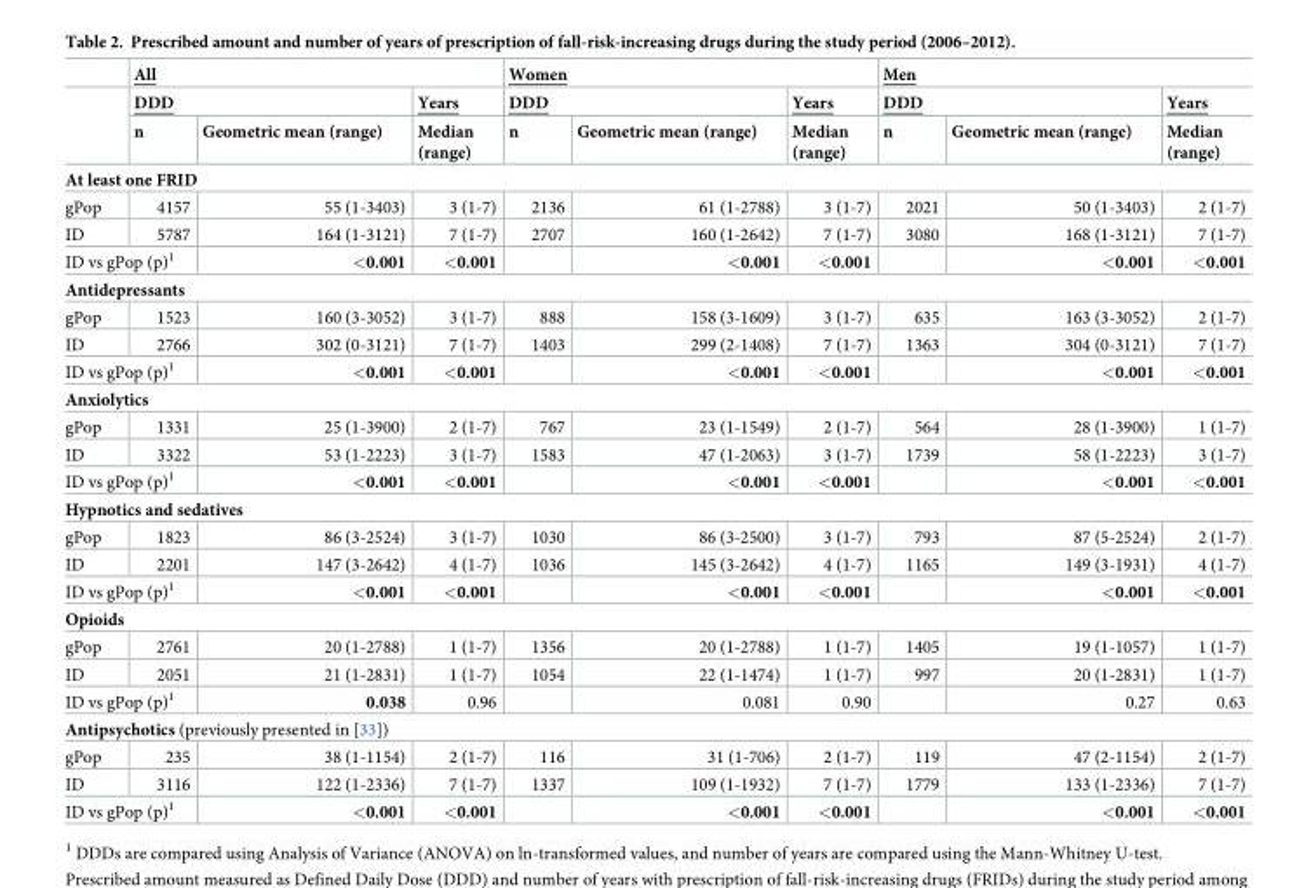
<table><thead><tr><td rowspan="3"></td><td colspan="3">All</td><td colspan="3">Women</td><td colspan="3">Men</td></tr><tr><td colspan="2">DDD</td><td rowspan="2">Years Median (range)</td><td colspan="2">DDD</td><td rowspan="2">Years Median (range)</td><td colspan="2">DDD</td><td rowspan="2">Years Median (range)</td></tr><tr><td>n</td><td>Geometric mean (range)</td><td>n</td><td>Geometric mean (range)</td><td>n</td><td>Geometric mean (range)</td></tr></thead><tbody><tr><td colspan="10">At least one FRID</td></tr><tr><td>gPop</td><td>4157</td><td>55 (1-3403)</td><td>3 (1-7)</td><td>2136</td><td>61 (1-2788)</td><td>3 (1-7)</td><td>2021</td><td>50 (1-3403)</td><td>2 (1-7)</td></tr><tr><td>ID</td><td>5787</td><td>164 (1-3121)</td><td>7 (1-7)</td><td>2707</td><td>160 (1-2642)</td><td>7 (1-7)</td><td>3080</td><td>168 (1-3121)</td><td>7 (1-7)</td></tr><tr><td colspan="2">ID vs gPop (p)<sup>1</sup></td><td>&lt;0.001</td><td>&lt;0.001</td><td></td><td>&lt;0.001</td><td>&lt;0.001</td><td></td><td>&lt;0.001</td><td>&lt;0.001</td></tr><tr><td colspan="10">Antidepressants</td></tr><tr><td>gPop</td><td>1523</td><td>160 (3-3052)</td><td>3 (1-7)</td><td>888</td><td>158 (3-1609)</td><td>3 (1-7)</td><td>635</td><td>163 (3-3052)</td><td>2 (1-7)</td></tr><tr><td>ID</td><td>2766</td><td>302 (0-3121)</td><td>7 (1-7)</td><td>1403</td><td>299 (2-1408)</td><td>7 (1-7)</td><td>1363</td><td>304 (0-3121)</td><td>7 (1-7)</td></tr><tr><td colspan="2">ID vs gPop (p)<sup>1</sup></td><td>&lt;0.001</td><td>&lt;0.001</td><td></td><td>&lt;0.001</td><td>&lt;0.001</td><td></td><td>&lt;0.001</td><td>&lt;0.001</td></tr><tr><td colspan="10">Anxiolytics</td></tr><tr><td>gPop</td><td>1331</td><td>25 (1-3900)</td><td>2 (1-7)</td><td>767</td><td>23 (1-1549)</td><td>2 (1-7)</td><td>564</td><td>28 (1-3900)</td><td>1 (1-7)</td></tr><tr><td>ID</td><td>3322</td><td>53 (1-2223)</td><td>3 (1-7)</td><td>1583</td><td>47 (1-2063)</td><td>3 (1-7)</td><td>1739</td><td>58 (1-2223)</td><td>3 (1-7)</td></tr><tr><td colspan="2">ID vs gPop (p)<sup>1</sup></td><td>&lt;0.001</td><td>&lt;0.001</td><td></td><td>&lt;0.001</td><td>&lt;0.001</td><td></td><td>&lt;0.001</td><td>&lt;0.001</td></tr><tr><td colspan="10">Hypnotics and sedatives</td></tr><tr><td>gPop</td><td>1823</td><td>86 (3-2524)</td><td>3 (1-7)</td><td>1030</td><td>86 (3-2500)</td><td>3 (1-7)</td><td>793</td><td>87 (5-2524)</td><td>2 (1-7)</td></tr><tr><td>ID</td><td>2201</td><td>147 (3-2642)</td><td>4 (1-7)</td><td>1036</td><td>145 (3-2642)</td><td>4 (1-7)</td><td>1165</td><td>149 (3-1931)</td><td>4 (1-7)</td></tr><tr><td colspan="2">ID vs gPop (p)<sup>1</sup></td><td>&lt;0.001</td><td>&lt;0.001</td><td></td><td>&lt;0.001</td><td>&lt;0.001</td><td></td><td>&lt;0.001</td><td>&lt;0.001</td></tr><tr><td colspan="10">Opioids</td></tr><tr><td>gPop</td><td>2761</td><td>20 (1-2788)</td><td>1 (1-7)</td><td>1356</td><td>20 (1-2788)</td><td>1 (1-7)</td><td>1405</td><td>19 (1-1057)</td><td>1 (1-7)</td></tr><tr><td>ID</td><td>2051</td><td>21 (1-2831)</td><td>1 (1-7)</td><td>1054</td><td>22 (1-1474)</td><td>1 (1-7)</td><td>997</td><td>20 (1-2831)</td><td>1 (1-7)</td></tr><tr><td colspan="2">ID vs gPop (p)<sup>1</sup></td><td>0.038</td><td>0.96</td><td></td><td>0.081</td><td>0.90</td><td></td><td>0.27</td><td>0.63</td></tr><tr><td colspan="10">Antipsychotics (previously presented in [33])</td></tr><tr><td>gPop</td><td>235</td><td>38 (1-1154)</td><td>2 (1-7)</td><td>116</td><td>31 (1-706)</td><td>2 (1-7)</td><td>119</td><td>47 (2-1154)</td><td>2 (1-7)</td></tr><tr><td>ID</td><td>3116</td><td>122 (1-2336)</td><td>7 (1-7)</td><td>1337</td><td>109 (1-1932)</td><td>7 (1-7)</td><td>1779</td><td>133 (1-2336)</td><td>7 (1-7)</td></tr><tr><td colspan="2">ID vs gPop (p)<sup>1</sup></td><td>&lt;0.001</td><td>&lt;0.001</td><td></td><td>&lt;0.001</td><td>&lt;0.001</td><td></td><td>&lt;0.001</td><td>&lt;0.001</td></tr></tbody></table>